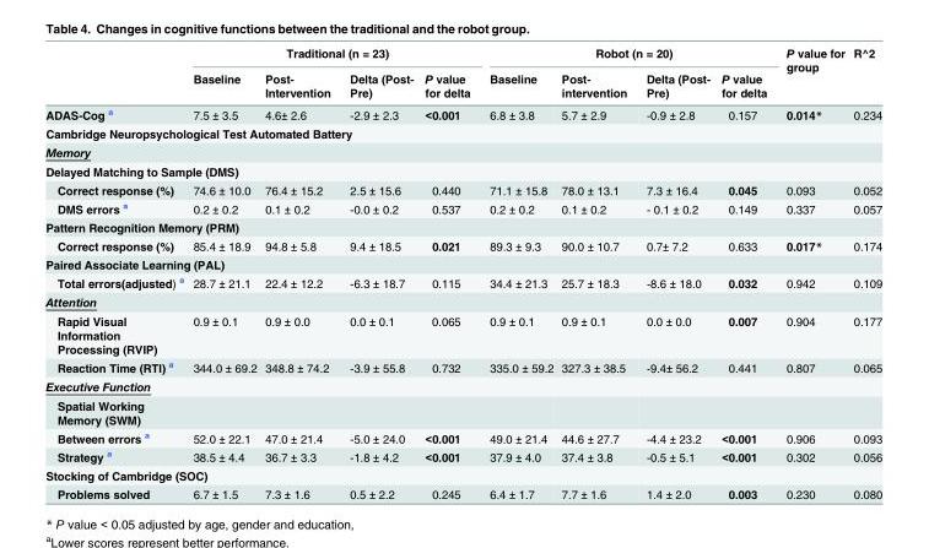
<table><thead><tr><td rowspan="2"></td><td colspan="4">Traditional (n = 23)</td><td colspan="4">Robot (n = 20)</td><td rowspan="2">P value for group</td><td rowspan="2">R^2</td></tr><tr><td>Baseline</td><td>Post- Intervention</td><td>Delta (Post- Pre)</td><td>P value for delta</td><td>Baseline</td><td>Post- intervention</td><td>Delta (Post- Pre)</td><td>P value for delta</td></tr></thead><tbody><tr><td>ADAS-Cog <sup>a</sup></td><td>7.5 ± 3.5</td><td>4.6± 2.6</td><td>-2.9 ± 2.3</td><td>&lt;0.001</td><td>6.8 ± 3.8</td><td>5.7 ± 2.9</td><td>-0.9 ± 2.8</td><td>0.157</td><td>0.014*</td><td>0.234</td></tr><tr><td colspan="11">Cambridge Neuropsychological Test Automated Battery</td></tr><tr><td colspan="11">Memory</td></tr><tr><td colspan="11">Delayed Matching to Sample (DMS)</td></tr><tr><td>Correct response (%)</td><td>74.6 ± 10.0</td><td>76.4 ± 15.2</td><td>2.5 ± 15.6</td><td>0.440</td><td>71.1 ± 15.8</td><td>78.0 ± 13.1</td><td>7.3 ± 16.4</td><td>0.045</td><td>0.093</td><td>0.052</td></tr><tr><td>DMS errors <sup>a</sup></td><td>0.2 ± 0.2</td><td>0.1 ± 0.2</td><td>-0.0 ± 0.2</td><td>0.537</td><td>0.2 ± 0.2</td><td>0.1 ± 0.2</td><td>- 0.1 ± 0.2</td><td>0.149</td><td>0.337</td><td>0.057</td></tr><tr><td colspan="11">Pattern Recognition Memory (PRM)</td></tr><tr><td>Correct response (%)</td><td>85.4 ± 18.9</td><td>94.8 ± 5.8</td><td>9.4 ± 18.5</td><td>0.021</td><td>89.3 ± 9.3</td><td>90.0 ± 10.7</td><td>0.7± 7.2</td><td>0.633</td><td>0.017*</td><td>0.174</td></tr><tr><td colspan="11">Paired Associate Learning (PAL)</td></tr><tr><td>Total errors(adjusted) <sup>a</sup></td><td>28.7 ± 21.1</td><td>22.4 ± 12.2</td><td>-6.3 ± 18.7</td><td>0.115</td><td>34.4 ± 21.3</td><td>25.7 ± 18.3</td><td>-8.6 ± 18.0</td><td>0.032</td><td>0.942</td><td>0.109</td></tr><tr><td colspan="11">Attention</td></tr><tr><td>Rapid Visual Information Processing (RVIP)</td><td>0.9 ± 0.1</td><td>0.9 ± 0.0</td><td>0.0 ± 0.1</td><td>0.065</td><td>0.9 ± 0.1</td><td>0.9 ± 0.1</td><td>0.0 ± 0.0</td><td>0.007</td><td>0.904</td><td>0.177</td></tr><tr><td>Reaction Time (RTI) <sup>a</sup></td><td>344.0 ± 69.2</td><td>348.8 ± 74.2</td><td>-3.9 ± 55.8</td><td>0.732</td><td>335.0 ± 59.2</td><td>327.3 ± 38.5</td><td>-9.4± 56.2</td><td>0.441</td><td>0.807</td><td>0.065</td></tr><tr><td colspan="11">Executive Function</td></tr><tr><td colspan="11">Spatial Working Memory (SWM)</td></tr><tr><td>Between errors <sup>a</sup></td><td>52.0 ± 22.1</td><td>47.0 ± 21.4</td><td>-5.0 ± 24.0</td><td>&lt;0.001</td><td>49.0 ± 21.4</td><td>44.6 ± 27.7</td><td>-4.4 ± 23.2</td><td>&lt;0.001</td><td>0.906</td><td>0.093</td></tr><tr><td>Strategy <sup>a</sup></td><td>38.5 ± 4.4</td><td>36.7 ± 3.3</td><td>-1.8 ± 4.2</td><td>&lt;0.001</td><td>37.9 ± 4.0</td><td>37.4 ± 3.8</td><td>-0.5 ± 5.1</td><td>&lt;0.001</td><td>0.302</td><td>0.056</td></tr><tr><td colspan="11">Stocking of Cambridge (SOC)</td></tr><tr><td>Problems solved</td><td>6.7 ± 1.5</td><td>7.3 ± 1.6</td><td>0.5 ± 2.2</td><td>0.245</td><td>6.4 ± 1.7</td><td>7.7 ± 1.6</td><td>1.4 ± 2.0</td><td>0.003</td><td>0.230</td><td>0.080</td></tr></tbody></table>